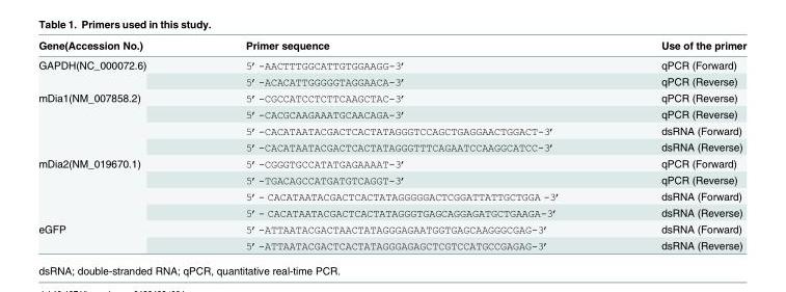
<table><thead><tr><td>Gene(Accession No.)</td><td>Primer sequence</td><td>Use of the primer</td></tr></thead><tbody><tr><td rowspan="2">GAPDH(NC_000072.6)</td><td>5’-AACTTTGGCATTGTGGAAGG-3’</td><td>qPCR (Forward)</td></tr><tr><td>5’-ACACATTGGGGGTAGGAACA-3’</td><td>qPCR (Reverse)</td></tr><tr><td rowspan="4">mDia1(NM_007858.2)</td><td>5’-CGCCATCCTCTTCAAGCTAC-3’</td><td>qPCR (Reverse)</td></tr><tr><td>5’-CACGCAAGAAATGCAACAGA-3’</td><td>qPCR (Reverse)</td></tr><tr><td>5’-CACATAATACGACTCACTATAGGGTCCAGCTGAGGAACTGGACT-3’</td><td>dsRNA (Forward)</td></tr><tr><td>5’-CACATAATACGACTCACTATAGGGTTTCAGAATCCAAGGCATCC-3’</td><td>dsRNA (Reverse)</td></tr><tr><td rowspan="4">mDia2(NM_019670.1)</td><td>5’-CGGGTGCCATATGAGAAAAT-3’</td><td>qPCR (Forward)</td></tr><tr><td>5’-TGACAGCCATGATGTCAGGT-3’</td><td>qPCR (Reverse)</td></tr><tr><td>5’- CACATAATACGACTCACTATAGGGGGACTCGGATTATTGCTGGA -3’</td><td>dsRNA (Forward)</td></tr><tr><td>5’- CACATAATACGACTCACTATAGGGTGAGCAGGAGATGCTGAAGA-3’</td><td>dsRNA (Reverse)</td></tr><tr><td rowspan="2">eGFP</td><td>5’-ATTAATACGACTAACTATAGGGAGAATGGTGAGCAAGGGCGAG-3’</td><td>dsRNA (Forward)</td></tr><tr><td>5’-ATTAATACGACTCACTATAGGGAGAGCTCGTCCATGCCGAGAG-3’</td><td>dsRNA (Reverse)</td></tr></tbody></table>